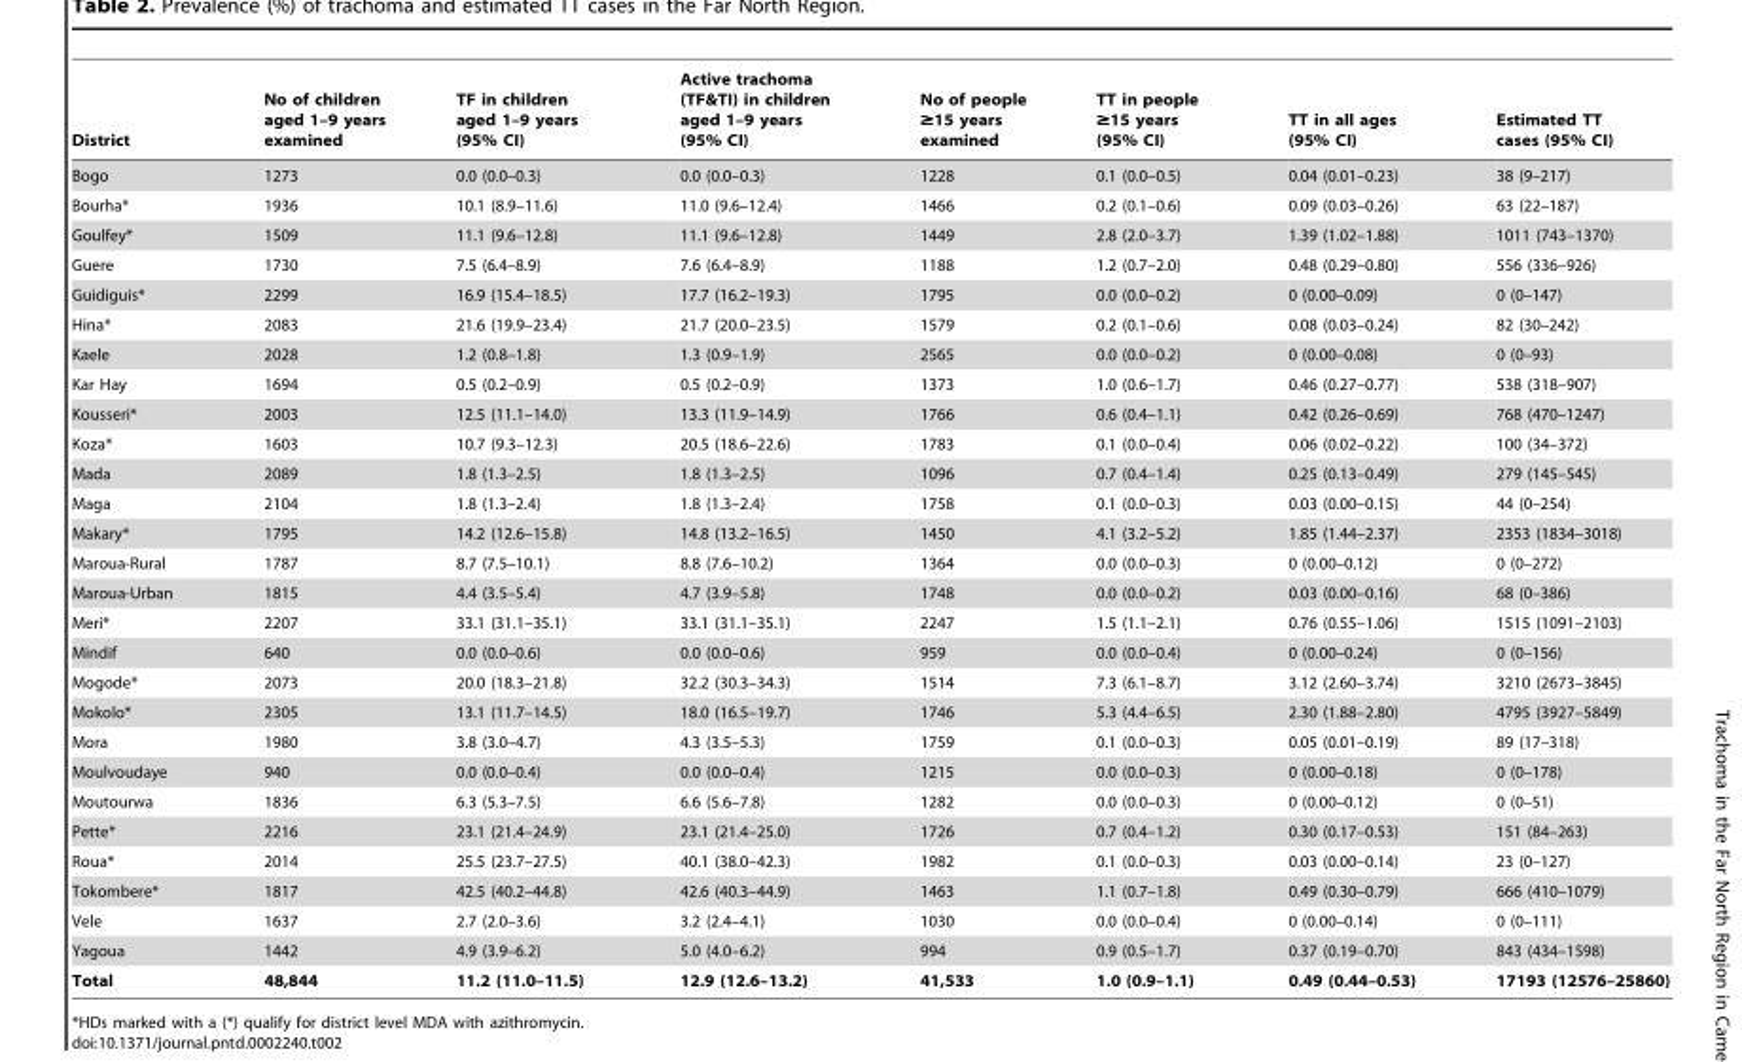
<table><thead><tr><td>District</td><td>No of children aged 1–9 years examined</td><td>TF in children aged 1–9 years (95% CI)</td><td>Active trachoma (TF&amp;TI) in children aged 1–9 years (95% CI)</td><td>No of people ≥15 years examined</td><td>TT in people ≥15 years (95% CI)</td><td>TT in all ages (95% CI)</td><td>Estimated TT cases (95% CI)</td></tr></thead><tbody><tr><td>Bogo</td><td>1273</td><td>0.0 (0.0–0.3)</td><td>0.0 (0.0–0.3)</td><td>1228</td><td>0.1 (0.0–0.5)</td><td>0.04 (0.01–0.23)</td><td>38 (9–217)</td></tr><tr><td>Bourha*</td><td>1936</td><td>10.1 (8.9–11.6)</td><td>11.0 (9.6–12.4)</td><td>1466</td><td>0.2 (0.1–0.6)</td><td>0.09 (0.03–0.26)</td><td>63 (22–187)</td></tr><tr><td>Goulfey*</td><td>1509</td><td>11.1 (9.6–12.8)</td><td>11.1 (9.6–12.8)</td><td>1449</td><td>2.8 (2.0–3.7)</td><td>1.39 (1.02–1.88)</td><td>1011 (743–1370)</td></tr><tr><td>Guere</td><td>1730</td><td>7.5 (6.4–8.9)</td><td>7.6 (6.4–8.9)</td><td>1188</td><td>1.2 (0.7–2.0)</td><td>0.48 (0.29–0.80)</td><td>556 (336–926)</td></tr><tr><td>Guidiguis*</td><td>2299</td><td>16.9 (15.4–18.5)</td><td>17.7 (16.2–19.3)</td><td>1795</td><td>0.0 (0.0–0.2)</td><td>0 (0.00–0.09)</td><td>0 (0–147)</td></tr><tr><td>Hina*</td><td>2083</td><td>21.6 (19.9–23.4)</td><td>21.7 (20.0–23.5)</td><td>1579</td><td>0.2 (0.1–0.6)</td><td>0.08 (0.03–0.24)</td><td>82 (30–242)</td></tr><tr><td>Kaele</td><td>2028</td><td>1.2 (0.8–1.8)</td><td>1.3 (0.9–1.9)</td><td>2565</td><td>0.0 (0.0–0.2)</td><td>0 (0.00–0.08)</td><td>0 (0–93)</td></tr><tr><td>Kar Hay</td><td>1694</td><td>0.5 (0.2–0.9)</td><td>0.5 (0.2–0.9)</td><td>1373</td><td>1.0 (0.6–1.7)</td><td>0.46 (0.27–0.77)</td><td>538 (318–907)</td></tr><tr><td>Kousseri*</td><td>2003</td><td>12.5 (11.1–14.0)</td><td>13.3 (11.9–14.9)</td><td>1766</td><td>0.6 (0.4–1.1)</td><td>0.42 (0.26–0.69)</td><td>768 (470–1247)</td></tr><tr><td>Koza*</td><td>1603</td><td>10.7 (9.3–12.3)</td><td>20.5 (18.6–22.6)</td><td>1783</td><td>0.1 (0.0–0.4)</td><td>0.06 (0.02–0.22)</td><td>100 (34–372)</td></tr><tr><td>Mada</td><td>2089</td><td>1.8 (1.3–2.5)</td><td>1.8 (1.3–2.5)</td><td>1096</td><td>0.7 (0.4–1.4)</td><td>0.25 (0.13–0.49)</td><td>279 (145–545)</td></tr><tr><td>Maga</td><td>2104</td><td>1.8 (1.3–2.4)</td><td>1.8 (1.3–2.4)</td><td>1758</td><td>0.1 (0.0–0.3)</td><td>0.03 (0.00–0.15)</td><td>44 (0–254)</td></tr><tr><td>Makary*</td><td>1795</td><td>14.2 (12.6–15.8)</td><td>14.8 (13.2–16.5)</td><td>1450</td><td>4.1 (3.2–5.2)</td><td>1.85 (1.44–2.37)</td><td>2353 (1834–3018)</td></tr><tr><td>Maroua-Rural</td><td>1787</td><td>8.7 (7.5–10.1)</td><td>8.8 (7.6–10.2)</td><td>1364</td><td>0.0 (0.0–0.3)</td><td>0 (0.00–0.12)</td><td>0 (0–272)</td></tr><tr><td>Maroua-Urban</td><td>1815</td><td>4.4 (3.5–5.4)</td><td>4.7 (3.9–5.8)</td><td>1748</td><td>0.0 (0.0–0.2)</td><td>0.03 (0.00–0.16)</td><td>68 (0–386)</td></tr><tr><td>Meri*</td><td>2207</td><td>33.1 (31.1–35.1)</td><td>33.1 (31.1–35.1)</td><td>2247</td><td>1.5 (1.1–2.1)</td><td>0.76 (0.55–1.06)</td><td>1515 (1091–2103)</td></tr><tr><td>Mindif</td><td>640</td><td>0.0 (0.0–0.6)</td><td>0.0 (0.0–0.6)</td><td>959</td><td>0.0 (0.0–0.4)</td><td>0 (0.00–0.24)</td><td>0 (0–156)</td></tr><tr><td>Mogode*</td><td>2073</td><td>20.0 (18.3–21.8)</td><td>32.2 (30.3–34.3)</td><td>1514</td><td>7.3 (6.1–8.7)</td><td>3.12 (2.60–3.74)</td><td>3210 (2673–3845)</td></tr><tr><td>Mokolo*</td><td>2305</td><td>13.1 (11.7–14.5)</td><td>18.0 (16.5–19.7)</td><td>1746</td><td>5.3 (4.4–6.5)</td><td>2.30 (1.88–2.80)</td><td>4795 (3927–5849)</td></tr><tr><td>Mora</td><td>1980</td><td>3.8 (3.0–4.7)</td><td>4.3 (3.5–5.3)</td><td>1759</td><td>0.1 (0.0–0.3)</td><td>0.05 (0.01–0.19)</td><td>89 (17–318)</td></tr><tr><td>Moulvoudaye</td><td>940</td><td>0.0 (0.0–0.4)</td><td>0.0 (0.0–0.4)</td><td>1215</td><td>0.0 (0.0–0.3)</td><td>0 (0.00–0.18)</td><td>0 (0–178)</td></tr><tr><td>Moutourwa</td><td>1836</td><td>6.3 (5.3–7.5)</td><td>6.6 (5.6–7.8)</td><td>1282</td><td>0.0 (0.0–0.3)</td><td>0 (0.00–0.12)</td><td>0 (0–51)</td></tr><tr><td>Pette*</td><td>2216</td><td>23.1 (21.4–24.9)</td><td>23.1 (21.4–25.0)</td><td>1726</td><td>0.7 (0.4–1.2)</td><td>0.30 (0.17–0.53)</td><td>151 (84–263)</td></tr><tr><td>Roua*</td><td>2014</td><td>25.5 (23.7–27.5)</td><td>40.1 (38.0–42.3)</td><td>1982</td><td>0.1 (0.0–0.3)</td><td>0.03 (0.00–0.14)</td><td>23 (0–127)</td></tr><tr><td>Tokombere*</td><td>1817</td><td>42.5 (40.2–44.8)</td><td>42.6 (40.3–44.9)</td><td>1463</td><td>1.1 (0.7–1.8)</td><td>0.49 (0.30–0.79)</td><td>666 (410–1079)</td></tr><tr><td>Vele</td><td>1637</td><td>2.7 (2.0–3.6)</td><td>3.2 (2.4–4.1)</td><td>1030</td><td>0.0 (0.0–0.4)</td><td>0 (0.00–0.14)</td><td>0 (0–111)</td></tr><tr><td>Yagoua</td><td>1442</td><td>4.9 (3.9–6.2)</td><td>5.0 (4.0–6.2)</td><td>994</td><td>0.9 (0.5–1.7)</td><td>0.37 (0.19–0.70)</td><td>843 (434–1598)</td></tr><tr><td>Total</td><td>48,844</td><td>11.2 (11.0–11.5)</td><td>12.9 (12.6–13.2)</td><td>41,533</td><td>1.0 (0.9–1.1)</td><td>0.49 (0.44–0.53)</td><td>17193 (12576–25860)</td></tr></tbody></table>